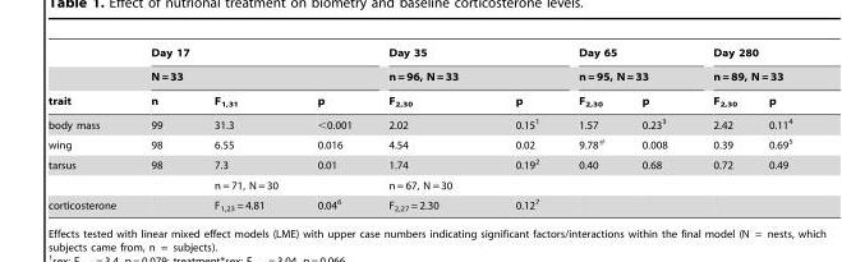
<table><thead><tr><td rowspan="3">trait</td><td rowspan="2" colspan="3">Day 17 N = 33</td><td rowspan="2" colspan="2">Day 35 n = 96, N = 33</td><td rowspan="2" colspan="2">Day 65 n = 95, N = 33</td><td rowspan="2" colspan="2">Day 280 n = 89, N = 33</td></tr><tr></tr><tr><td>n</td><td>F<sub>1,31</sub></td><td>p</td><td>F<sub>2,30</sub></td><td>p</td><td>F<sub>2,30</sub></td><td>p</td><td>F<sub>2,30</sub></td><td>p</td></tr></thead><tbody><tr><td>body mass</td><td>99</td><td>31.3</td><td>&lt;0.001</td><td>2.02</td><td>0.15<sup>1</sup></td><td>1.57</td><td>0.23<sup>3</sup></td><td>2.42</td><td>0.11<sup>4</sup></td></tr><tr><td>wing</td><td>98</td><td>6.55</td><td>0.016</td><td>4.54</td><td>0.02</td><td>9.78#</td><td>0.008</td><td>0.39</td><td>0.69<sup>5</sup></td></tr><tr><td rowspan="2">tarsus</td><td>98</td><td>7.3</td><td>0.01</td><td>1.74</td><td>0.19<sup>2</sup></td><td>0.40</td><td>0.68</td><td>0.72</td><td>0.49</td></tr><tr><td></td><td colspan="2">n = 71, N = 30</td><td colspan="2">n = 67, N = 30</td><td></td><td></td><td></td><td></td></tr><tr><td>corticosterone</td><td></td><td>F<sub>1,23</sub> = 4.81</td><td>0.04<sup>6</sup></td><td>F<sub>2,27</sub> = 2.30</td><td>0.12<sup>7</sup></td><td></td><td></td><td></td><td></td></tr></tbody></table>